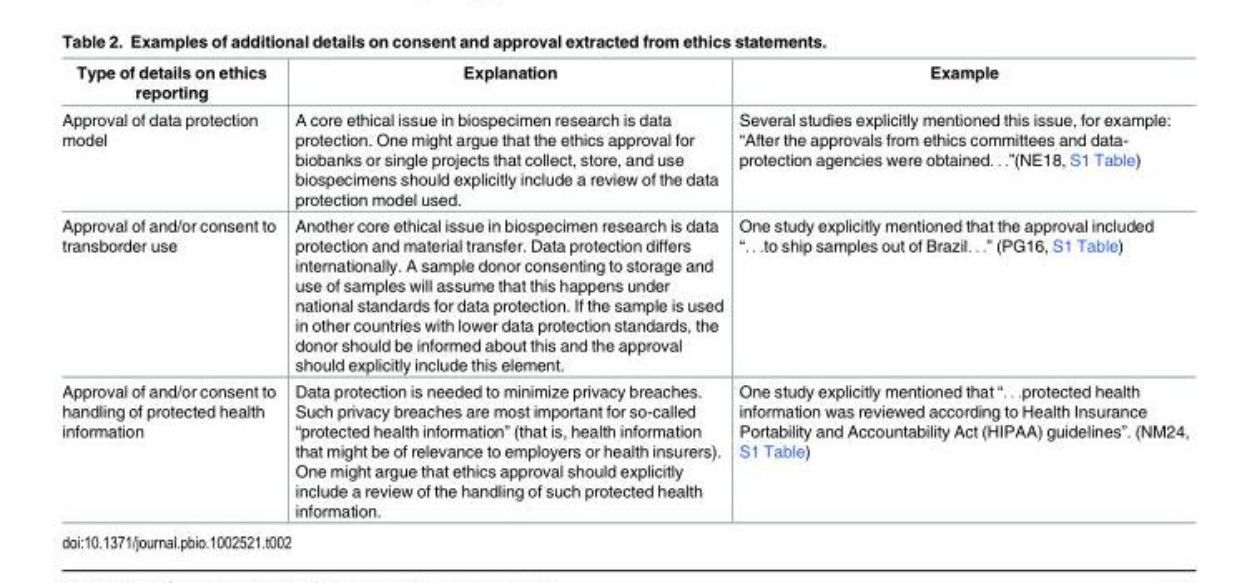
<table><thead><tr><td>Type of details on ethics reporting</td><td>Explanation</td><td>Example</td></tr></thead><tbody><tr><td>Approval of data protection model</td><td>A core ethical issue in biospecimen research is data protection. One might argue that the ethics approval for biobanks or single projects that collect, store, and use biospecimens should explicitly include a review of the data protection model used.</td><td>Several studies explicitly mentioned this issue, for example: “After the approvals from ethics committees and data- protection agencies were obtained. . .”(NE18, S1 Table)</td></tr><tr><td>Approval of and/or consent to transborder use</td><td>Another core ethical issue in biospecimen research is data protection and material transfer. Data protection differs internationally. A sample donor consenting to storage and use of samples will assume that this happens under national standards for data protection. If the sample is used in other countries with lower data protection standards, the donor should be informed about this and the approval should explicitly include this element.</td><td>One study explicitly mentioned that the approval included “. . .to ship samples out of Brazil. . .” (PG16, S1 Table)</td></tr><tr><td>Approval of and/or consent to handling of protected health information</td><td>Data protection is needed to minimize privacy breaches. Such privacy breaches are most important for so-called “protected health information” (that is, health information that might be of relevance to employers or health insurers). One might argue that ethics approval should explicitly include a review of the handling of such protected health information.</td><td>One study explicitly mentioned that “. . .protected health information was reviewed according to Health Insurance Portability and Accountability Act (HIPAA) guidelines”. (NM24, S1 Table)</td></tr></tbody></table>